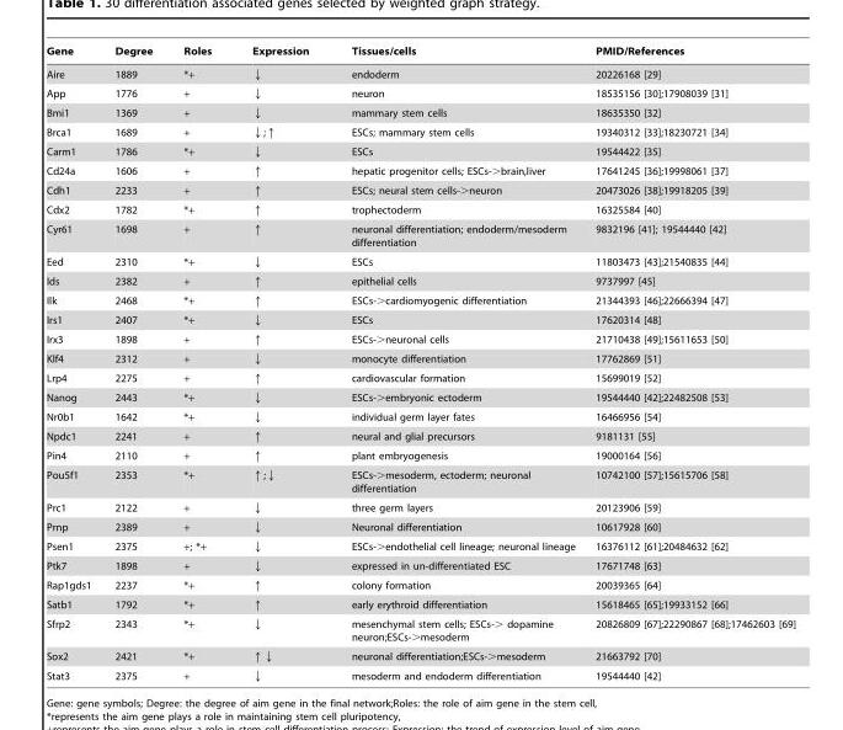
<table><thead><tr><td>Gene</td><td>Degree</td><td>Roles</td><td>Expression</td><td>Tissues/cells</td><td>PMID/References</td></tr></thead><tbody><tr><td>Aire</td><td>1889</td><td>*+</td><td>↓</td><td>endoderm</td><td>20226168 [29]</td></tr><tr><td>App</td><td>1776</td><td>+</td><td>↓</td><td>neuron</td><td>18535156 [30];17908039 [31]</td></tr><tr><td>Bmi1</td><td>1369</td><td>+</td><td>↓</td><td>mammary stem cells</td><td>18635350 [32]</td></tr><tr><td>Brca1</td><td>1689</td><td>+</td><td>↓;↑</td><td>ESCs; mammary stem cells</td><td>19340312 [33];18230721 [34]</td></tr><tr><td>Carm1</td><td>1786</td><td>*+</td><td>↓</td><td>ESCs</td><td>19544422 [35]</td></tr><tr><td>Cd24a</td><td>1606</td><td>+</td><td>↑</td><td>hepatic progenitor cells; ESCs-&gt;brain,liver</td><td>17641245 [36];19998061 [37]</td></tr><tr><td>Cdh1</td><td>2233</td><td>+</td><td>↑</td><td>ESCs; neural stem cells-&gt;neuron</td><td>20473026 [38];19918205 [39]</td></tr><tr><td>Cdx2</td><td>1782</td><td>*+</td><td>↑</td><td>trophectoderm</td><td>16325584 [40]</td></tr><tr><td>Cyr61</td><td>1698</td><td>+</td><td>↑</td><td>neuronal differentiation; endoderm/mesoderm differentiation</td><td>9832196 [41]; 19544440 [42]</td></tr><tr><td>Eed</td><td>2310</td><td>*+</td><td>↓</td><td>ESCs</td><td>11803473 [43];21540835 [44]</td></tr><tr><td>Ids</td><td>2382</td><td>+</td><td>↑</td><td>epithelial cells</td><td>9737997 [45]</td></tr><tr><td>Ilk</td><td>2468</td><td>*+</td><td>↑</td><td>ESCs-&gt;cardiomyogenic differentiation</td><td>21344393 [46];22666394 [47]</td></tr><tr><td>Irs1</td><td>2407</td><td>*+</td><td>↓</td><td>ESCs</td><td>17620314 [48]</td></tr><tr><td>Irx3</td><td>1898</td><td>+</td><td>↑</td><td>ESCs-&gt;neuronal cells</td><td>21710438 [49];15611653 [50]</td></tr><tr><td>Klf4</td><td>2312</td><td>+</td><td>↓</td><td>monocyte differentiation</td><td>17762869 [51]</td></tr><tr><td>Lrp4</td><td>2275</td><td>+</td><td>↑</td><td>cardiovascular formation</td><td>15699019 [52]</td></tr><tr><td>Nanog</td><td>2443</td><td>*+</td><td>↓</td><td>ESCs-&gt;embryonic ectoderm</td><td>19544440 [42];22482508 [53]</td></tr><tr><td>Nr0b1</td><td>1642</td><td>*+</td><td>↓</td><td>individual germ layer fates</td><td>16466956 [54]</td></tr><tr><td>Npdc1</td><td>2241</td><td>+</td><td>↑</td><td>neural and glial precursors</td><td>9181131 [55]</td></tr><tr><td>Pin4</td><td>2110</td><td>+</td><td>↑</td><td>plant embryogenesis</td><td>19000164 [56]</td></tr><tr><td>Pou5f1</td><td>2353</td><td>*+</td><td>↑;↓</td><td>ESCs-&gt;mesoderm, ectoderm; neuronal differentiation</td><td>10742100 [57];15615706 [58]</td></tr><tr><td>Prc1</td><td>2122</td><td>+</td><td>↓</td><td>three germ layers</td><td>20123906 [59]</td></tr><tr><td>Prnp</td><td>2389</td><td>+</td><td>↓</td><td>Neuronal differentiation</td><td>10617928 [60]</td></tr><tr><td>Psen1</td><td>2375</td><td>+; *+</td><td>↓</td><td>ESCs-&gt;endothelial cell lineage; neuronal lineage</td><td>16376112 [61];20484632 [62]</td></tr><tr><td>Ptk7</td><td>1898</td><td>+</td><td>↓</td><td>expressed in un-differentiated ESC</td><td>17671748 [63]</td></tr><tr><td>Rap1gds1</td><td>2237</td><td>*+</td><td>↑</td><td>colony formation</td><td>20039365 [64]</td></tr><tr><td>Satb1</td><td>1792</td><td>*+</td><td>↑</td><td>early erythroid differentiation</td><td>15618465 [65];19933152 [66]</td></tr><tr><td>Sfrp2</td><td>2343</td><td>*+</td><td>↓</td><td>mesenchymal stem cells; ESCs-&gt; dopamine neuron;ESCs-&gt;mesoderm</td><td>20826809 [67];22290867 [68];17462603 [69]</td></tr><tr><td>Sox2</td><td>2421</td><td>*+</td><td>↑↓</td><td>neuronal differentiation;ESCs-&gt;mesoderm</td><td>21663792 [70]</td></tr><tr><td>Stat3</td><td>2375</td><td>+</td><td>↓</td><td>mesoderm and endoderm differentiation</td><td>19544440 [42]</td></tr></tbody></table>